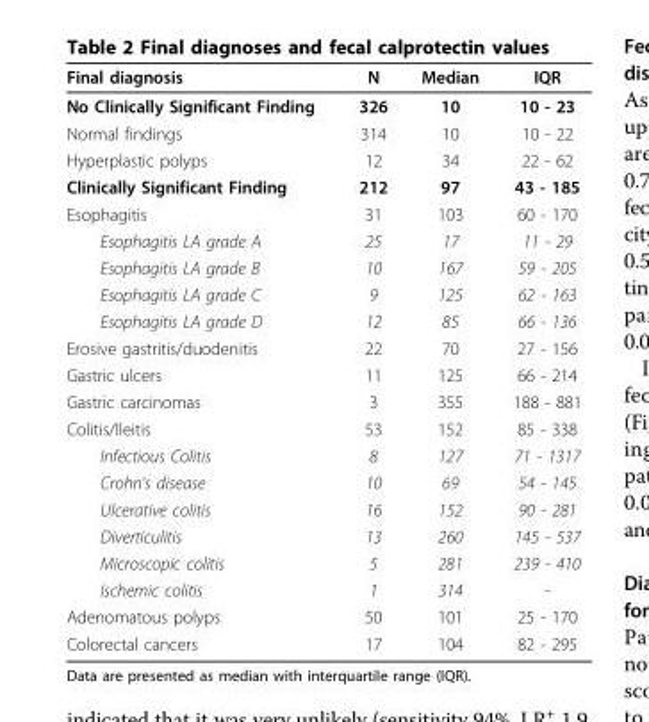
<table><thead><tr><td>Final diagnosis</td><td>N</td><td>Median</td><td>IQR</td></tr></thead><tbody><tr><td>No Clinically Significant Finding</td><td>326</td><td>10</td><td>10 - 23</td></tr><tr><td>Normal findings</td><td>314</td><td>10</td><td>10 - 22</td></tr><tr><td>Hyperplastic polyps</td><td>12</td><td>34</td><td>22 - 62</td></tr><tr><td>Clinically Significant Finding</td><td>212</td><td>97</td><td>43 - 185</td></tr><tr><td>Esophagitis</td><td>31</td><td>103</td><td>60 - 170</td></tr><tr><td>Esophagitis LA grade A</td><td>25</td><td>17</td><td>11 - 29</td></tr><tr><td>Esophagitis LA grade B</td><td>10</td><td>167</td><td>59 - 205</td></tr><tr><td>Esophagitis LA grade C</td><td>9</td><td>125</td><td>62 - 163</td></tr><tr><td>Esophagitis LA grade D</td><td>12</td><td>85</td><td>66 - 136</td></tr><tr><td>Erosive gastritis/duodenitis</td><td>22</td><td>70</td><td>27 - 156</td></tr><tr><td>Gastric ulcers</td><td>11</td><td>125</td><td>66 - 214</td></tr><tr><td>Gastric carcinomas</td><td>3</td><td>355</td><td>188 - 881</td></tr><tr><td>Colitis/Ileitis</td><td>53</td><td>152</td><td>85 - 338</td></tr><tr><td>Infectious Colitis</td><td>8</td><td>127</td><td>71 - 1317</td></tr><tr><td>Crohn’s disease</td><td>10</td><td>69</td><td>54 - 145</td></tr><tr><td>Ulcerative colitis</td><td>16</td><td>152</td><td>90 - 281</td></tr><tr><td>Diverticulitis</td><td>13</td><td>260</td><td>145 - 537</td></tr><tr><td>Microscopic colitis</td><td>5</td><td>281</td><td>239 - 410</td></tr><tr><td>Ischemic colitis</td><td>1</td><td>314</td><td>-</td></tr><tr><td>Adenomatous polyps</td><td>50</td><td>101</td><td>25 - 170</td></tr><tr><td>Colorectal cancers</td><td>17</td><td>104</td><td>82 - 295</td></tr></tbody></table>